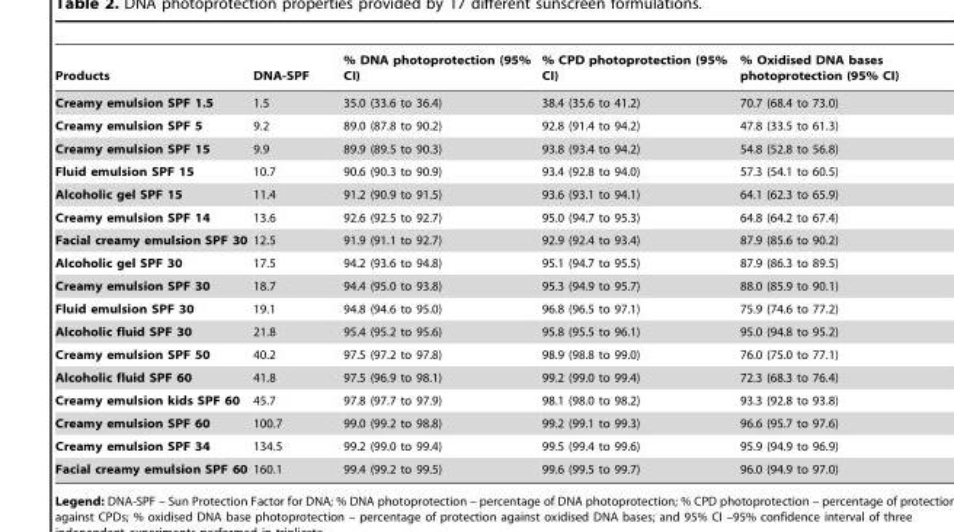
<table><thead><tr><td>Products</td><td>DNA-SPF</td><td>% DNA photoprotection (95% CI)</td><td>% CPD photoprotection (95% CI)</td><td>% Oxidised DNA bases photoprotection (95% CI)</td></tr></thead><tbody><tr><td>Creamy emulsion SPF 1.5</td><td>1.5</td><td>35.0 (33.6 to 36.4)</td><td>38.4 (35.6 to 41.2)</td><td>70.7 (68.4 to 73.0)</td></tr><tr><td>Creamy emulsion SPF 5</td><td>9.2</td><td>89.0 (87.8 to 90.2)</td><td>92.8 (91.4 to 94.2)</td><td>47.8 (33.5 to 61.3)</td></tr><tr><td>Creamy emulsion SPF 15</td><td>9.9</td><td>89.9 (89.5 to 90.3)</td><td>93.8 (93.4 to 94.2)</td><td>54.8 (52.8 to 56.8)</td></tr><tr><td>Fluid emulsion SPF 15</td><td>10.7</td><td>90.6 (90.3 to 90.9)</td><td>93.4 (92.8 to 94.0)</td><td>57.3 (54.1 to 60.5)</td></tr><tr><td>Alcoholic gel SPF 15</td><td>11.4</td><td>91.2 (90.9 to 91.5)</td><td>93.6 (93.1 to 94.1)</td><td>64.1 (62.3 to 65.9)</td></tr><tr><td>Creamy emulsion SPF 14</td><td>13.6</td><td>92.6 (92.5 to 92.7)</td><td>95.0 (94.7 to 95.3)</td><td>64.8 (64.2 to 67.4)</td></tr><tr><td>Facial creamy emulsion SPF 30</td><td>12.5</td><td>91.9 (91.1 to 92.7)</td><td>92.9 (92.4 to 93.4)</td><td>87.9 (85.6 to 90.2)</td></tr><tr><td>Alcoholic gel SPF 30</td><td>17.5</td><td>94.2 (93.6 to 94.8)</td><td>95.1 (94.7 to 95.5)</td><td>87.9 (86.3 to 89.5)</td></tr><tr><td>Creamy emulsion SPF 30</td><td>18.7</td><td>94.4 (95.0 to 93.8)</td><td>95.3 (94.9 to 95.7)</td><td>88.0 (85.9 to 90.1)</td></tr><tr><td>Fluid emulsion SPF 30</td><td>19.1</td><td>94.8 (94.6 to 95.0)</td><td>96.8 (96.5 to 97.1)</td><td>75.9 (74.6 to 77.2)</td></tr><tr><td>Alcoholic fluid SPF 30</td><td>21.8</td><td>95.4 (95.2 to 95.6)</td><td>95.8 (95.5 to 96.1)</td><td>95.0 (94.8 to 95.2)</td></tr><tr><td>Creamy emulsion SPF 50</td><td>40.2</td><td>97.5 (97.2 to 97.8)</td><td>98.9 (98.8 to 99.0)</td><td>76.0 (75.0 to 77.1)</td></tr><tr><td>Alcoholic fluid SPF 60</td><td>41.8</td><td>97.5 (96.9 to 98.1)</td><td>99.2 (99.0 to 99.4)</td><td>72.3 (68.3 to 76.4)</td></tr><tr><td>Creamy emulsion kids SPF 60</td><td>45.7</td><td>97.8 (97.7 to 97.9)</td><td>98.1 (98.0 to 98.2)</td><td>93.3 (92.8 to 93.8)</td></tr><tr><td>Creamy emulsion SPF 60</td><td>100.7</td><td>99.0 (99.2 to 98.8)</td><td>99.2 (99.1 to 99.3)</td><td>96.6 (95.7 to 97.6)</td></tr><tr><td>Creamy emulsion SPF 34</td><td>134.5</td><td>99.2 (99.0 to 99.4)</td><td>99.5 (99.4 to 99.6)</td><td>95.9 (94.9 to 96.9)</td></tr><tr><td>Facial creamy emulsion SPF 60</td><td>160.1</td><td>99.4 (99.2 to 99.5)</td><td>99.6 (99.5 to 99.7)</td><td>96.0 (94.9 to 97.0)</td></tr></tbody></table>